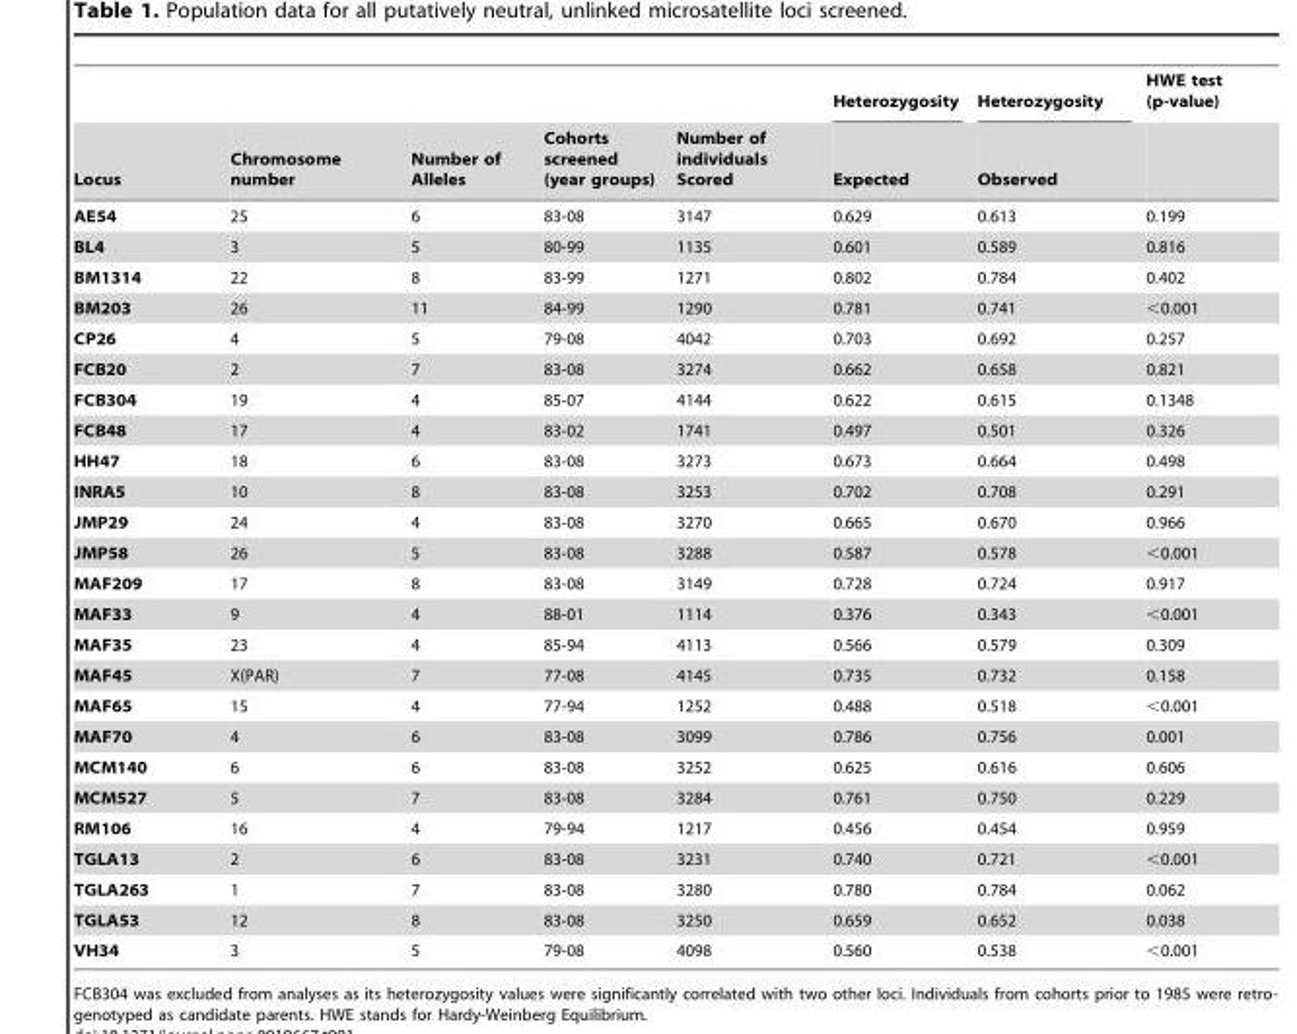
<table><thead><tr><td rowspan="2">Locus</td><td rowspan="2">Chromosome number</td><td rowspan="2">Number of Alleles</td><td rowspan="2">Cohorts screened (year groups)</td><td rowspan="2">Number of individuals Scored</td><td rowspan="2">Heterozygosity Expected</td><td rowspan="2">Heterozygosity Observed</td><td rowspan="2">HWE test (p-value)</td></tr><tr></tr></thead><tbody><tr><td>AE54</td><td>25</td><td>6</td><td>83-08</td><td>3147</td><td>0.629</td><td>0.613</td><td>0.199</td></tr><tr><td>BL4</td><td>3</td><td>5</td><td>80-99</td><td>1135</td><td>0.601</td><td>0.589</td><td>0.816</td></tr><tr><td>BM1314</td><td>22</td><td>8</td><td>83-99</td><td>1271</td><td>0.802</td><td>0.784</td><td>0.402</td></tr><tr><td>BM203</td><td>26</td><td>11</td><td>84-99</td><td>1290</td><td>0.781</td><td>0.741</td><td>&lt;0.001</td></tr><tr><td>CP26</td><td>4</td><td>5</td><td>79-08</td><td>4042</td><td>0.703</td><td>0.692</td><td>0.257</td></tr><tr><td>FCB20</td><td>2</td><td>7</td><td>83-08</td><td>3274</td><td>0.662</td><td>0.658</td><td>0.821</td></tr><tr><td>FCB304</td><td>19</td><td>4</td><td>85-07</td><td>4144</td><td>0.622</td><td>0.615</td><td>0.1348</td></tr><tr><td>FCB48</td><td>17</td><td>4</td><td>83-02</td><td>1741</td><td>0.497</td><td>0.501</td><td>0.326</td></tr><tr><td>HH47</td><td>18</td><td>6</td><td>83-08</td><td>3273</td><td>0.673</td><td>0.664</td><td>0.498</td></tr><tr><td>INRA5</td><td>10</td><td>8</td><td>83-08</td><td>3253</td><td>0.702</td><td>0.708</td><td>0.291</td></tr><tr><td>JMP29</td><td>24</td><td>4</td><td>83-08</td><td>3270</td><td>0.665</td><td>0.670</td><td>0.966</td></tr><tr><td>JMP58</td><td>26</td><td>5</td><td>83-08</td><td>3288</td><td>0.587</td><td>0.578</td><td>&lt;0.001</td></tr><tr><td>MAF209</td><td>17</td><td>8</td><td>83-08</td><td>3149</td><td>0.728</td><td>0.724</td><td>0.917</td></tr><tr><td>MAF33</td><td>9</td><td>4</td><td>88-01</td><td>1114</td><td>0.376</td><td>0.343</td><td>&lt;0.001</td></tr><tr><td>MAF35</td><td>23</td><td>4</td><td>85-94</td><td>4113</td><td>0.566</td><td>0.579</td><td>0.309</td></tr><tr><td>MAF45</td><td>X(PAR)</td><td>7</td><td>77-08</td><td>4145</td><td>0.735</td><td>0.732</td><td>0.158</td></tr><tr><td>MAF65</td><td>15</td><td>4</td><td>77-94</td><td>1252</td><td>0.488</td><td>0.518</td><td>&lt;0.001</td></tr><tr><td>MAF70</td><td>4</td><td>6</td><td>83-08</td><td>3099</td><td>0.786</td><td>0.756</td><td>0.001</td></tr><tr><td>MCM140</td><td>6</td><td>6</td><td>83-08</td><td>3252</td><td>0.625</td><td>0.616</td><td>0.606</td></tr><tr><td>MCM527</td><td>5</td><td>7</td><td>83-08</td><td>3284</td><td>0.761</td><td>0.750</td><td>0.229</td></tr><tr><td>RM106</td><td>16</td><td>4</td><td>79-94</td><td>1217</td><td>0.456</td><td>0.454</td><td>0.959</td></tr><tr><td>TGLA13</td><td>2</td><td>6</td><td>83-08</td><td>3231</td><td>0.740</td><td>0.721</td><td>&lt;0.001</td></tr><tr><td>TGLA263</td><td>1</td><td>7</td><td>83-08</td><td>3280</td><td>0.780</td><td>0.784</td><td>0.062</td></tr><tr><td>TGLA53</td><td>12</td><td>8</td><td>83-08</td><td>3250</td><td>0.659</td><td>0.652</td><td>0.038</td></tr><tr><td>VH34</td><td>3</td><td>5</td><td>79-08</td><td>4098</td><td>0.560</td><td>0.538</td><td>&lt;0.001</td></tr></tbody></table>